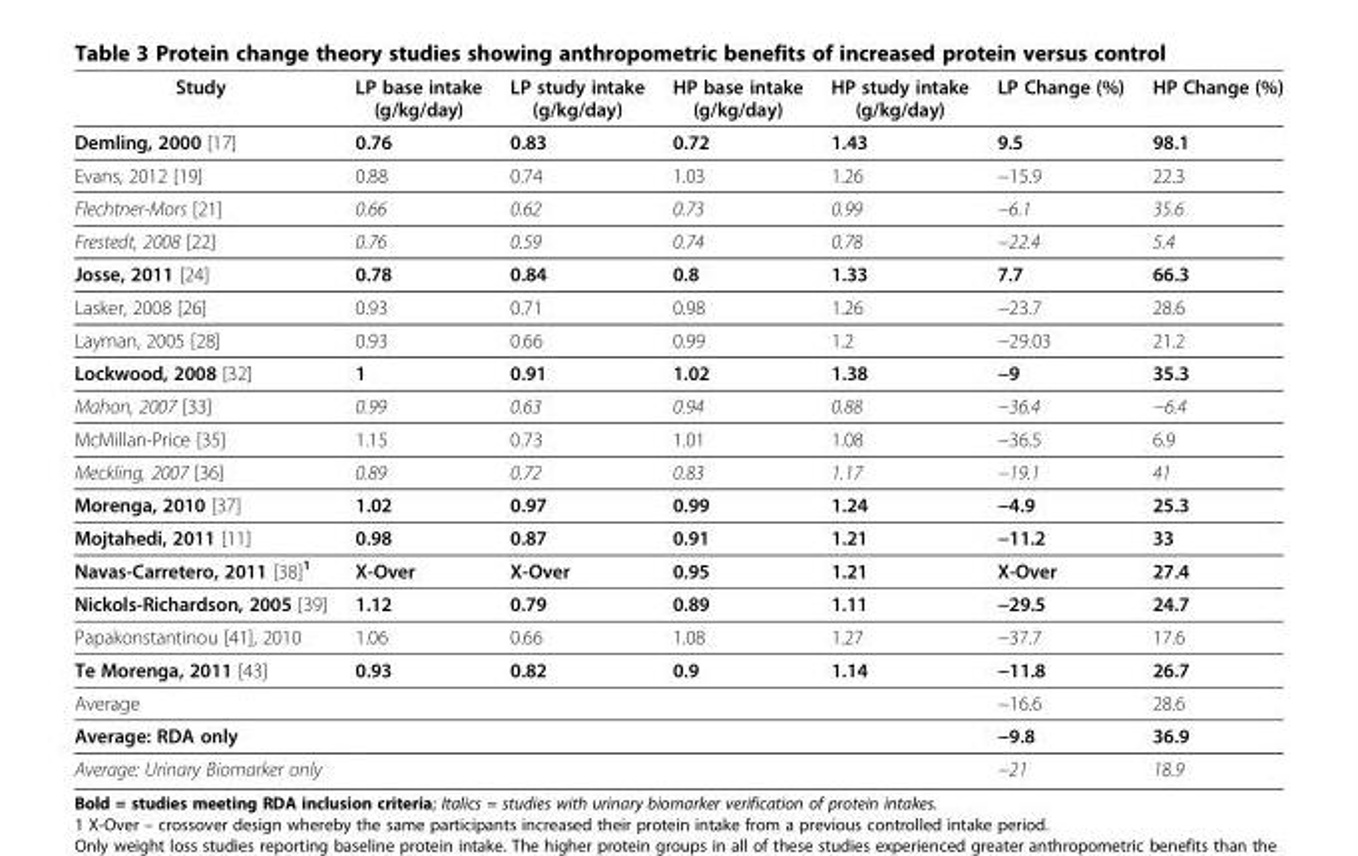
<table><thead><tr><td>Study</td><td>LP base intake (g/kg/day)</td><td>LP study intake (g/kg/day)</td><td>HP base intake (g/kg/day)</td><td>HP study intake (g/kg/day)</td><td>LP Change (%)</td><td>HP Change (%)</td></tr></thead><tbody><tr><td>Demling, 2000 [17]</td><td>0.76</td><td>0.83</td><td>0.72</td><td>1.43</td><td>9.5</td><td>98.1</td></tr><tr><td>Evans, 2012 [19]</td><td>0.88</td><td>0.74</td><td>1.03</td><td>1.26</td><td>−15.9</td><td>22.3</td></tr><tr><td>Flechtner-Mors [21]</td><td>0.66</td><td>0.62</td><td>0.73</td><td>0.99</td><td>−6.1</td><td>35.6</td></tr><tr><td>Frestedt, 2008 [22]</td><td>0.76</td><td>0.59</td><td>0.74</td><td>0.78</td><td>−22.4</td><td>5.4</td></tr><tr><td>Josse, 2011 [24]</td><td>0.78</td><td>0.84</td><td>0.8</td><td>1.33</td><td>7.7</td><td>66.3</td></tr><tr><td>Lasker, 2008 [26]</td><td>0.93</td><td>0.71</td><td>0.98</td><td>1.26</td><td>−23.7</td><td>28.6</td></tr><tr><td>Layman, 2005 [28]</td><td>0.93</td><td>0.66</td><td>0.99</td><td>1.2</td><td>−29.03</td><td>21.2</td></tr><tr><td>Lockwood, 2008 [32]</td><td>1</td><td>0.91</td><td>1.02</td><td>1.38</td><td>−9</td><td>35.3</td></tr><tr><td>Mahon, 2007 [33]</td><td>0.99</td><td>0.63</td><td>0.94</td><td>0.88</td><td>−36.4</td><td>−6.4</td></tr><tr><td>McMillan-Price [35]</td><td>1.15</td><td>0.73</td><td>1.01</td><td>1.08</td><td>−36.5</td><td>6.9</td></tr><tr><td>Meckling, 2007 [36]</td><td>0.89</td><td>0.72</td><td>0.83</td><td>1.17</td><td>−19.1</td><td>41</td></tr><tr><td>Morenga, 2010 [37]</td><td>1.02</td><td>0.97</td><td>0.99</td><td>1.24</td><td>−4.9</td><td>25.3</td></tr><tr><td>Mojtahedi, 2011 [11]</td><td>0.98</td><td>0.87</td><td>0.91</td><td>1.21</td><td>−11.2</td><td>33</td></tr><tr><td>Navas-Carretero, 2011 [38]<sup>1</sup></td><td>X-Over</td><td>X-Over</td><td>0.95</td><td>1.21</td><td>X-Over</td><td>27.4</td></tr><tr><td>Nickols-Richardson, 2005 [39]</td><td>1.12</td><td>0.79</td><td>0.89</td><td>1.11</td><td>−29.5</td><td>24.7</td></tr><tr><td>Papakonstantinou [41], 2010</td><td>1.06</td><td>0.66</td><td>1.08</td><td>1.27</td><td>−37.7</td><td>17.6</td></tr><tr><td>Te Morenga, 2011 [43]</td><td>0.93</td><td>0.82</td><td>0.9</td><td>1.14</td><td>−11.8</td><td>26.7</td></tr><tr><td>Average</td><td></td><td></td><td></td><td></td><td>−16.6</td><td>28.6</td></tr><tr><td>Average: RDA only</td><td></td><td></td><td></td><td></td><td>−9.8</td><td>36.9</td></tr><tr><td>Average: Urinary Biomarker only</td><td></td><td></td><td></td><td></td><td>−21</td><td>18.9</td></tr></tbody></table>